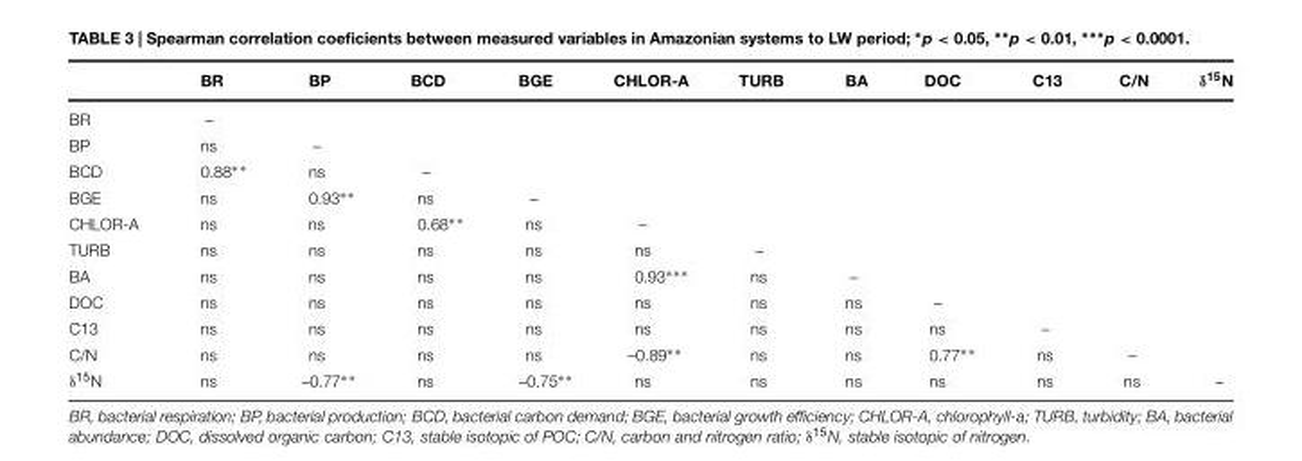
<table><thead><tr><td></td><td>BR</td><td>BP</td><td>BCD</td><td>BGE</td><td>CHLOR-A</td><td>TURB</td><td>BA</td><td>DOC</td><td>C13</td><td>C/N</td><td>δ<sup>15</sup>N</td></tr></thead><tbody><tr><td>BR</td><td>–</td><td></td><td></td><td></td><td></td><td></td><td></td><td></td><td></td><td></td><td></td></tr><tr><td>BP</td><td>ns</td><td>–</td><td></td><td></td><td></td><td></td><td></td><td></td><td></td><td></td><td></td></tr><tr><td>BCD</td><td>0.88∗∗</td><td>ns</td><td>–</td><td></td><td></td><td></td><td></td><td></td><td></td><td></td><td></td></tr><tr><td>BGE</td><td>ns</td><td>0.93∗∗</td><td>ns</td><td>–</td><td></td><td></td><td></td><td></td><td></td><td></td><td></td></tr><tr><td>CHLOR-A</td><td>ns</td><td>ns</td><td>0.68∗∗</td><td>ns</td><td>–</td><td></td><td></td><td></td><td></td><td></td><td></td></tr><tr><td>TURB</td><td>ns</td><td>ns</td><td>ns</td><td>ns</td><td>ns</td><td>–</td><td></td><td></td><td></td><td></td><td></td></tr><tr><td>BA</td><td>ns</td><td>ns</td><td>ns</td><td>ns</td><td>0.93∗∗∗</td><td>ns</td><td>–</td><td></td><td></td><td></td><td></td></tr><tr><td>DOC</td><td>ns</td><td>ns</td><td>ns</td><td>ns</td><td>ns</td><td>ns</td><td>ns</td><td>–</td><td></td><td></td><td></td></tr><tr><td>C13</td><td>ns</td><td>ns</td><td>ns</td><td>ns</td><td>ns</td><td>ns</td><td>ns</td><td>ns</td><td>–</td><td></td><td></td></tr><tr><td>C/N</td><td>ns</td><td>ns</td><td>ns</td><td>ns</td><td>–0.89∗∗</td><td>ns</td><td>ns</td><td>0.77∗∗</td><td>ns</td><td>–</td><td></td></tr><tr><td>δ<sup>15</sup>N</td><td>ns</td><td>–0.77∗∗</td><td>ns</td><td>–0.75∗∗</td><td>ns</td><td>ns</td><td>ns</td><td>ns</td><td>ns</td><td>ns</td><td>–</td></tr></tbody></table>